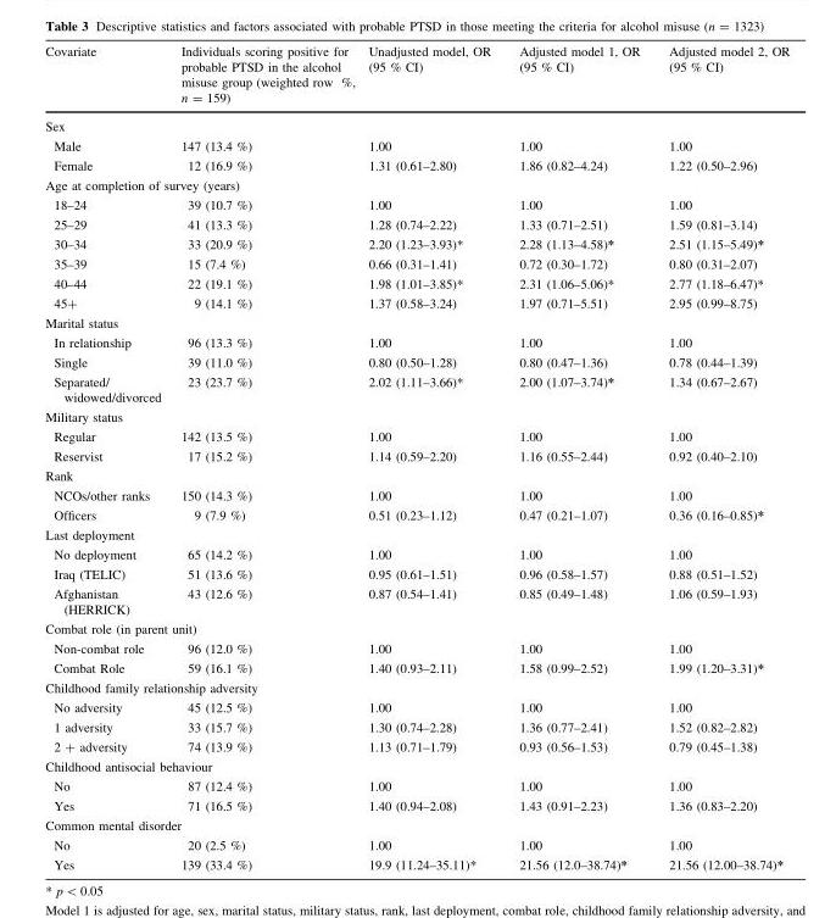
<table><thead><tr><td>Covariate</td><td>Individuals scoring positive for probable PTSD in the alcohol misuse group (weighted row %, n = 159)</td><td>Unadjusted model, OR (95 % CI)</td><td>Adjusted model 1, OR (95 % CI)</td><td>Adjusted model 2, OR (95 % CI)</td></tr></thead><tbody><tr><td colspan="5">Sex</td></tr><tr><td>Male</td><td>147 (13.4 %)</td><td>1.00</td><td>1.00</td><td>1.00</td></tr><tr><td>Female</td><td>12 (16.9 %)</td><td>1.31 (0.61–2.80)</td><td>1.86 (0.82–4.24)</td><td>1.22 (0.50–2.96)</td></tr><tr><td colspan="5">Age at completion of survey (years)</td></tr><tr><td>18–24</td><td>39 (10.7 %)</td><td>1.00</td><td>1.00</td><td>1.00</td></tr><tr><td>25–29</td><td>41 (13.3 %)</td><td>1.28 (0.74–2.22)</td><td>1.33 (0.71–2.51)</td><td>1.59 (0.81–3.14)</td></tr><tr><td>30–34</td><td>33 (20.9 %)</td><td>2.20 (1.23–3.93)*</td><td>2.28 (1.13–4.58)*</td><td>2.51 (1.15–5.49)*</td></tr><tr><td>35–39</td><td>15 (7.4 %)</td><td>0.66 (0.31–1.41)</td><td>0.72 (0.30–1.72)</td><td>0.80 (0.31–2.07)</td></tr><tr><td>40–44</td><td>22 (19.1 %)</td><td>1.98 (1.01–3.85)*</td><td>2.31 (1.06–5.06)*</td><td>2.77 (1.18–6.47)*</td></tr><tr><td>45+</td><td>9 (14.1 %)</td><td>1.37 (0.58–3.24)</td><td>1.97 (0.71–5.51)</td><td>2.95 (0.99–8.75)</td></tr><tr><td colspan="5">Marital status</td></tr><tr><td>In relationship</td><td>96 (13.3 %)</td><td>1.00</td><td>1.00</td><td>1.00</td></tr><tr><td>Single</td><td>39 (11.0 %)</td><td>0.80 (0.50–1.28)</td><td>0.80 (0.47–1.36)</td><td>0.78 (0.44–1.39)</td></tr><tr><td>Separated/ widowed/divorced</td><td>23 (23.7 %)</td><td>2.02 (1.11–3.66)*</td><td>2.00 (1.07–3.74)*</td><td>1.34 (0.67–2.67)</td></tr><tr><td colspan="5">Military status</td></tr><tr><td>Regular</td><td>142 (13.5 %)</td><td>1.00</td><td>1.00</td><td>1.00</td></tr><tr><td>Reservist</td><td>17 (15.2 %)</td><td>1.14 (0.59–2.20)</td><td>1.16 (0.55–2.44)</td><td>0.92 (0.40–2.10)</td></tr><tr><td colspan="5">Rank</td></tr><tr><td>NCOs/other ranks</td><td>150 (14.3 %)</td><td>1.00</td><td>1.00</td><td>1.00</td></tr><tr><td>Officers</td><td>9 (7.9 %)</td><td>0.51 (0.23–1.12)</td><td>0.47 (0.21–1.07)</td><td>0.36 (0.16–0.85)*</td></tr><tr><td colspan="5">Last deployment</td></tr><tr><td>No deployment</td><td>65 (14.2 %)</td><td>1.00</td><td>1.00</td><td>1.00</td></tr><tr><td>Iraq (TELIC)</td><td>51 (13.6 %)</td><td>0.95 (0.61–1.51)</td><td>0.96 (0.58–1.57)</td><td>0.88 (0.51–1.52)</td></tr><tr><td>Afghanistan (HERRICK)</td><td>43 (12.6 %)</td><td>0.87 (0.54–1.41)</td><td>0.85 (0.49–1.48)</td><td>1.06 (0.59–1.93)</td></tr><tr><td colspan="5">Combat role (in parent unit)</td></tr><tr><td>Non-combat role</td><td>96 (12.0 %)</td><td>1.00</td><td>1.00</td><td>1.00</td></tr><tr><td>Combat Role</td><td>59 (16.1 %)</td><td>1.40 (0.93–2.11)</td><td>1.58 (0.99–2.52)</td><td>1.99 (1.20–3.31)*</td></tr><tr><td colspan="5">Childhood family relationship adversity</td></tr><tr><td>No adversity</td><td>45 (12.5 %)</td><td>1.00</td><td>1.00</td><td>1.00</td></tr><tr><td>1 adversity</td><td>33 (15.7 %)</td><td>1.30 (0.74–2.28)</td><td>1.36 (0.77–2.41)</td><td>1.52 (0.82–2.82)</td></tr><tr><td>2 + adversity</td><td>74 (13.9 %)</td><td>1.13 (0.71–1.79)</td><td>0.93 (0.56–1.53)</td><td>0.79 (0.45–1.38)</td></tr><tr><td colspan="5">Childhood antisocial behaviour</td></tr><tr><td>No</td><td>87 (12.4 %)</td><td>1.00</td><td>1.00</td><td>1.00</td></tr><tr><td>Yes</td><td>71 (16.5 %)</td><td>1.40 (0.94–2.08)</td><td>1.43 (0.91–2.23)</td><td>1.36 (0.83–2.20)</td></tr><tr><td colspan="5">Common mental disorder</td></tr><tr><td>No</td><td>20 (2.5 %)</td><td>1.00</td><td>1.00</td><td>1.00</td></tr><tr><td>Yes</td><td>139 (33.4 %)</td><td>19.9 (11.24–35.11)*</td><td>21.56 (12.0–38.74)*</td><td>21.56 (12.00–38.74)*</td></tr></tbody></table>